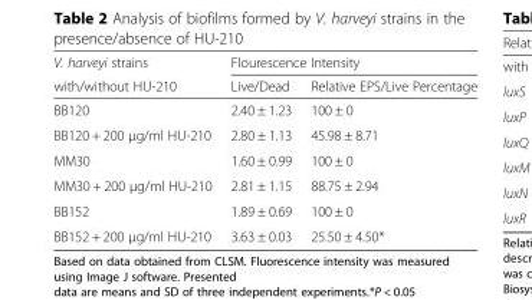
<table><thead><tr><td rowspan="2">V. harveyi strains with/without HU-210</td><td colspan="2">Flourescence Intensity</td></tr><tr><td>Live/Dead</td><td>Relative EPS/Live Percentage</td></tr></thead><tbody><tr><td>BB120</td><td>2.40 ± 1.23</td><td>100 ± 0</td></tr><tr><td>BB120 + 200 μg/ml HU-210</td><td>2.80 ± 1.13</td><td>45.98 ± 8.71</td></tr><tr><td>MM30</td><td>1.60 ± 0.99</td><td>100 ± 0</td></tr><tr><td>MM30 + 200 μg/ml HU-210</td><td>2.81 ± 1.15</td><td>88.75 ± 2.94</td></tr><tr><td>BB152</td><td>1.89 ± 0.69</td><td>100 ± 0</td></tr><tr><td>BB152 + 200 μg/ml HU-210</td><td>3.63 ± 0.03</td><td>25.50 ± 4.50*</td></tr></tbody></table>